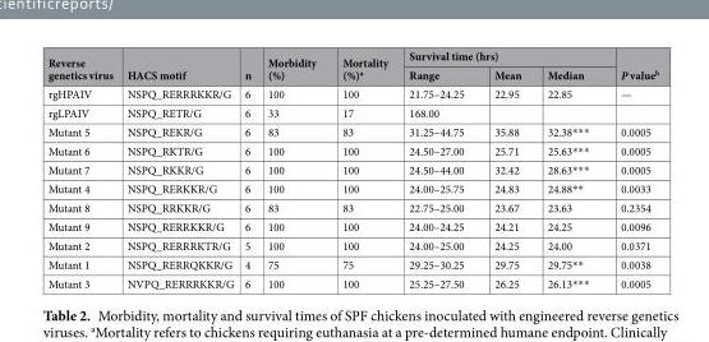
<table><thead><tr><td rowspan="2">Reverse genetics virus</td><td rowspan="2">HACS motif</td><td rowspan="2">n</td><td rowspan="2">Morbidity (%)</td><td rowspan="2">Mortality (%)<sup>a</sup></td><td colspan="3">Survival time (hrs)</td><td rowspan="2">P value<sup>b</sup></td></tr><tr><td>Range</td><td>Mean</td><td>Median</td></tr></thead><tbody><tr><td>rgHPAIV</td><td>NSPQ_RERRRKKR/G</td><td>6</td><td>100</td><td>100</td><td>21.75–24.25</td><td>22.95</td><td>22.85</td><td>—</td></tr><tr><td>rgLPAIV</td><td>NSPQ_RETR/G</td><td>6</td><td>33</td><td>17</td><td>168.00</td><td></td><td></td><td></td></tr><tr><td>Mutant 5</td><td>NSPQ_REKR/G</td><td>6</td><td>83</td><td>83</td><td>31.25–44.75</td><td>35.88</td><td>32.38***</td><td>0.0005</td></tr><tr><td>Mutant 6</td><td>NSPQ_RKTR/G</td><td>6</td><td>100</td><td>100</td><td>24.50–27.00</td><td>25.71</td><td>25.63***</td><td>0.0005</td></tr><tr><td>Mutant 7</td><td>NSPQ_RKKR/G</td><td>6</td><td>100</td><td>100</td><td>24.50–44.00</td><td>32.42</td><td>28.63***</td><td>0.0005</td></tr><tr><td>Mutant 4</td><td>NSPQ_RERKKR/G</td><td>6</td><td>100</td><td>100</td><td>24.00–25.75</td><td>24.83</td><td>24.88**</td><td>0.0033</td></tr><tr><td>Mutant 8</td><td>NSPQ_RRKKR/G</td><td>6</td><td>83</td><td>83</td><td>22.75–25.00</td><td>23.67</td><td>23.63</td><td>0.2354</td></tr><tr><td>Mutant 9</td><td>NSPQ_RERRKKR/G</td><td>6</td><td>100</td><td>100</td><td>24.00–24.25</td><td>24.21</td><td>24.25</td><td>0.0096</td></tr><tr><td>Mutant 2</td><td>NSPQ_RERRRKTR/G</td><td>5</td><td>100</td><td>100</td><td>24.00–25.00</td><td>24.25</td><td>24.00</td><td>0.0371</td></tr><tr><td>Mutant 1</td><td>NSPQ_RERRQKKR/G</td><td>4</td><td>75</td><td>75</td><td>29.25–30.25</td><td>29.75</td><td>29.75**</td><td>0.0038</td></tr><tr><td>Mutant 3</td><td>NVPQ_RERRRKKR/G</td><td>6</td><td>100</td><td>100</td><td>25.25–27.50</td><td>26.25</td><td>26.13***</td><td>0.0005</td></tr></tbody></table>